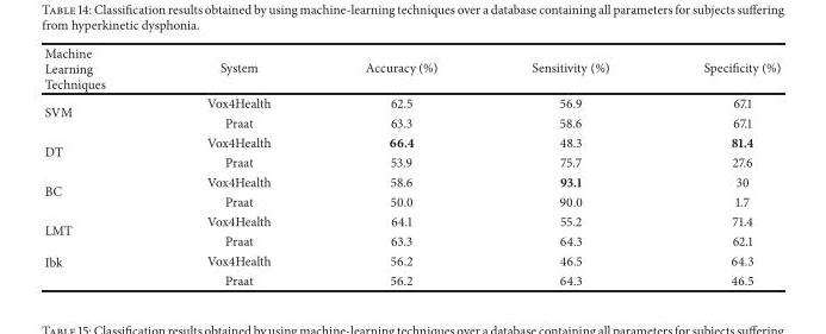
<table><thead><tr><td>Machine Learning Techniques</td><td>System</td><td>Accuracy (%)</td><td>Sensitivity (%)</td><td>Specificity (%)</td></tr></thead><tbody><tr><td rowspan="2">SVM</td><td>Vox4Health</td><td>62.5</td><td>56.9</td><td>67.1</td></tr><tr><td>Praat</td><td>63.3</td><td>58.6</td><td>67.1</td></tr><tr><td rowspan="2">DT</td><td>Vox4Health</td><td>66.4</td><td>48.3</td><td>81.4</td></tr><tr><td>Praat</td><td>53.9</td><td>75.7</td><td>27.6</td></tr><tr><td rowspan="2">BC</td><td>Vox4Health</td><td>58.6</td><td>93.1</td><td>30</td></tr><tr><td>Praat</td><td>50.0</td><td>90.0</td><td>1.7</td></tr><tr><td rowspan="2">LMT</td><td>Vox4Health</td><td>64.1</td><td>55.2</td><td>71.4</td></tr><tr><td>Praat</td><td>63.3</td><td>64.3</td><td>62.1</td></tr><tr><td rowspan="2">Ibk</td><td>Vox4Health</td><td>56.2</td><td>46.5</td><td>64.3</td></tr><tr><td>Praat</td><td>56.2</td><td>64.3</td><td>46.5</td></tr></tbody></table>